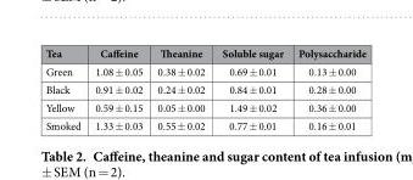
<table><thead><tr><td>Tea</td><td>Caffeine</td><td>Theanine</td><td>Soluble sugar</td><td>Polysaccharide</td></tr></thead><tbody><tr><td>Green</td><td>1.08 ± 0.05</td><td>0.38 ± 0.02</td><td>0.69 ± 0.01</td><td>0.13 ± 0.00</td></tr><tr><td>Black</td><td>0.91 ± 0.02</td><td>0.24 ± 0.02</td><td>0.84 ± 0.01</td><td>0.28 ± 0.00</td></tr><tr><td>Yellow</td><td>0.59 ± 0.15</td><td>0.05 ± 0.00</td><td>1.49 ± 0.02</td><td>0.36 ± 0.00</td></tr><tr><td>Smoked</td><td>1.33 ± 0.03</td><td>0.55 ± 0.02</td><td>0.77 ± 0.01</td><td>0.16 ± 0.01</td></tr></tbody></table>